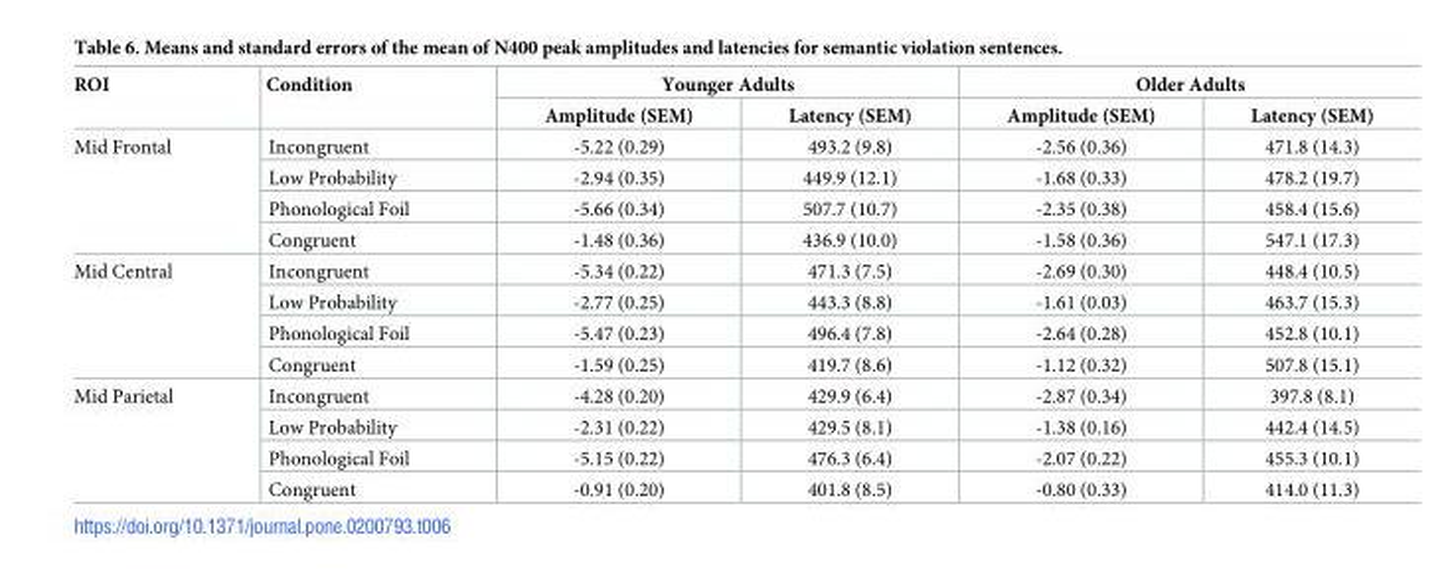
<table><thead><tr><td rowspan="2">ROI</td><td rowspan="2">Condition</td><td colspan="2">Younger Adults</td><td colspan="2">Older Adults</td></tr><tr><td>Amplitude (SEM)</td><td>Latency (SEM)</td><td>Amplitude (SEM)</td><td>Latency (SEM)</td></tr></thead><tbody><tr><td rowspan="4">Mid Frontal</td><td>Incongruent</td><td>-5.22 (0.29)</td><td>493.2 (9.8)</td><td>-2.56 (0.36)</td><td>471.8 (14.3)</td></tr><tr><td>Low Probability</td><td>-2.94 (0.35)</td><td>449.9 (12.1)</td><td>-1.68 (0.33)</td><td>478.2 (19.7)</td></tr><tr><td>Phonological Foil</td><td>-5.66 (0.34)</td><td>507.7 (10.7)</td><td>-2.35 (0.38)</td><td>458.4 (15.6)</td></tr><tr><td>Congruent</td><td>-1.48 (0.36)</td><td>436.9 (10.0)</td><td>-1.58 (0.36)</td><td>547.1 (17.3)</td></tr><tr><td rowspan="4">Mid Central</td><td>Incongruent</td><td>-5.34 (0.22)</td><td>471.3 (7.5)</td><td>-2.69 (0.30)</td><td>448.4 (10.5)</td></tr><tr><td>Low Probability</td><td>-2.77 (0.25)</td><td>443.3 (8.8)</td><td>-1.61 (0.03)</td><td>463.7 (15.3)</td></tr><tr><td>Phonological Foil</td><td>-5.47 (0.23)</td><td>496.4 (7.8)</td><td>-2.64 (0.28)</td><td>452.8 (10.1)</td></tr><tr><td>Congruent</td><td>-1.59 (0.25)</td><td>419.7 (8.6)</td><td>-1.12 (0.32)</td><td>507.8 (15.1)</td></tr><tr><td rowspan="4">Mid Parietal</td><td>Incongruent</td><td>-4.28 (0.20)</td><td>429.9 (6.4)</td><td>-2.87 (0.34)</td><td>397.8 (8.1)</td></tr><tr><td>Low Probability</td><td>-2.31 (0.22)</td><td>429.5 (8.1)</td><td>-1.38 (0.16)</td><td>442.4 (14.5)</td></tr><tr><td>Phonological Foil</td><td>-5.15 (0.22)</td><td>476.3 (6.4)</td><td>-2.07 (0.22)</td><td>455.3 (10.1)</td></tr><tr><td>Congruent</td><td>-0.91 (0.20)</td><td>401.8 (8.5)</td><td>-0.80 (0.33)</td><td>414.0 (11.3)</td></tr></tbody></table>